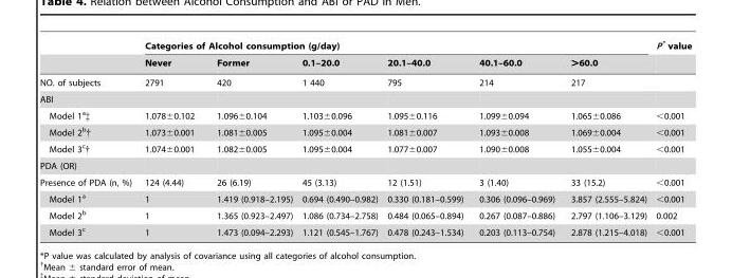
<table><thead><tr><td rowspan="2"></td><td colspan="6">Categories of Alcohol consumption (g/day)</td><td rowspan="2">P* value</td></tr><tr><td>Never</td><td>Former</td><td>0.1–20.0</td><td>20.1–40.0</td><td>40.1–60.0</td><td>&gt;60.0</td></tr></thead><tbody><tr><td>NO. of subjects</td><td>2791</td><td>420</td><td>1 440</td><td>795</td><td>214</td><td>217</td><td></td></tr><tr><td colspan="8">ABI</td></tr><tr><td>Model 1<sup>a</sup>‡</td><td>1.078±0.102</td><td>1.096±0.104</td><td>1.103±0.096</td><td>1.095±0.116</td><td>1.099±0.094</td><td>1.065±0.086</td><td>&lt;0.001</td></tr><tr><td>Model 2<sup>b</sup>†</td><td>1.073±0.001</td><td>1.081±0.005</td><td>1.095±0.004</td><td>1.081±0.007</td><td>1.093±0.008</td><td>1.069±0.004</td><td>&lt;0.001</td></tr><tr><td>Model 3<sup>c</sup>†</td><td>1.074±0.001</td><td>1.082±0.005</td><td>1.095±0.004</td><td>1.077±0.007</td><td>1.090±0.008</td><td>1.055±0.004</td><td>&lt;0.001</td></tr><tr><td colspan="8">PDA (OR)</td></tr><tr><td>Presence of PDA (n, %)</td><td>124 (4.44)</td><td>26 (6.19)</td><td>45 (3.13)</td><td>12 (1.51)</td><td>3 (1.40)</td><td>33 (15.2)</td><td>&lt;0.001</td></tr><tr><td>Model 1<sup>a</sup></td><td>1</td><td>1.419 (0.918–2.195)</td><td>0.694 (0.490–0.982)</td><td>0.330 (0.181–0.599)</td><td>0.306 (0.096–0.969)</td><td>3.857 (2.555–5.824)</td><td>&lt;0.001</td></tr><tr><td>Model 2<sup>b</sup></td><td>1</td><td>1.365 (0.923–2.497)</td><td>1.086 (0.734–2.758)</td><td>0.484 (0.065–0.894)</td><td>0.267 (0.087–0.886)</td><td>2.797 (1.106–3.129)</td><td>0.002</td></tr><tr><td>Model 3<sup>c</sup></td><td>1</td><td>1.473 (0.094–2.293)</td><td>1.121 (0.545–1.767)</td><td>0.478 (0.243–1.534)</td><td>0.203 (0.113–0.754)</td><td>2.878 (1.215–4.018)</td><td>&lt;0.001</td></tr></tbody></table>